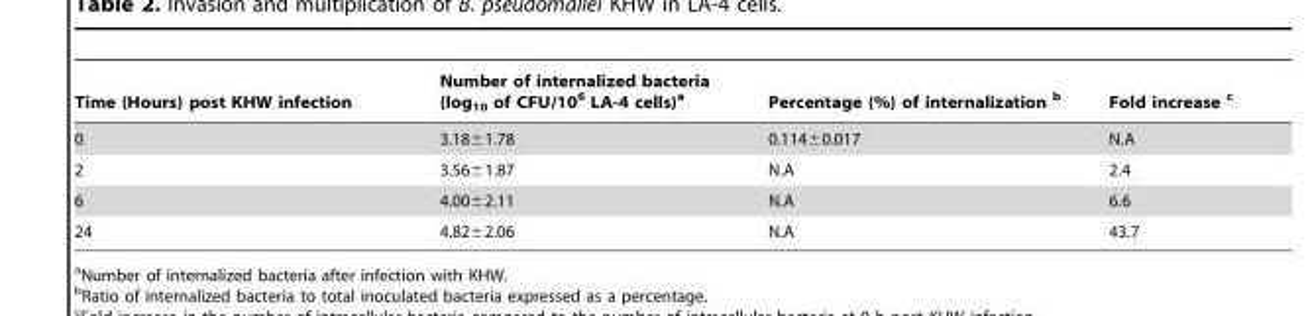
<table><thead><tr><td>Time (Hours) post KHW infection</td><td>Number of internalized bacteria (log<sub>10</sub> of CFU/10<sup>6</sup> LA-4 cells)<sup>a</sup></td><td>Percentage (%) of internalization b</td><td>Fold increase c</td></tr></thead><tbody><tr><td>0</td><td>3.18±1.78</td><td>0.114±0.017</td><td>N.A</td></tr><tr><td>2</td><td>3.56±1.87</td><td>N.A</td><td>2.4</td></tr><tr><td>6</td><td>4.00±2.11</td><td>N.A</td><td>6.6</td></tr><tr><td>24</td><td>4.82±2.06</td><td>N.A</td><td>43.7</td></tr></tbody></table>